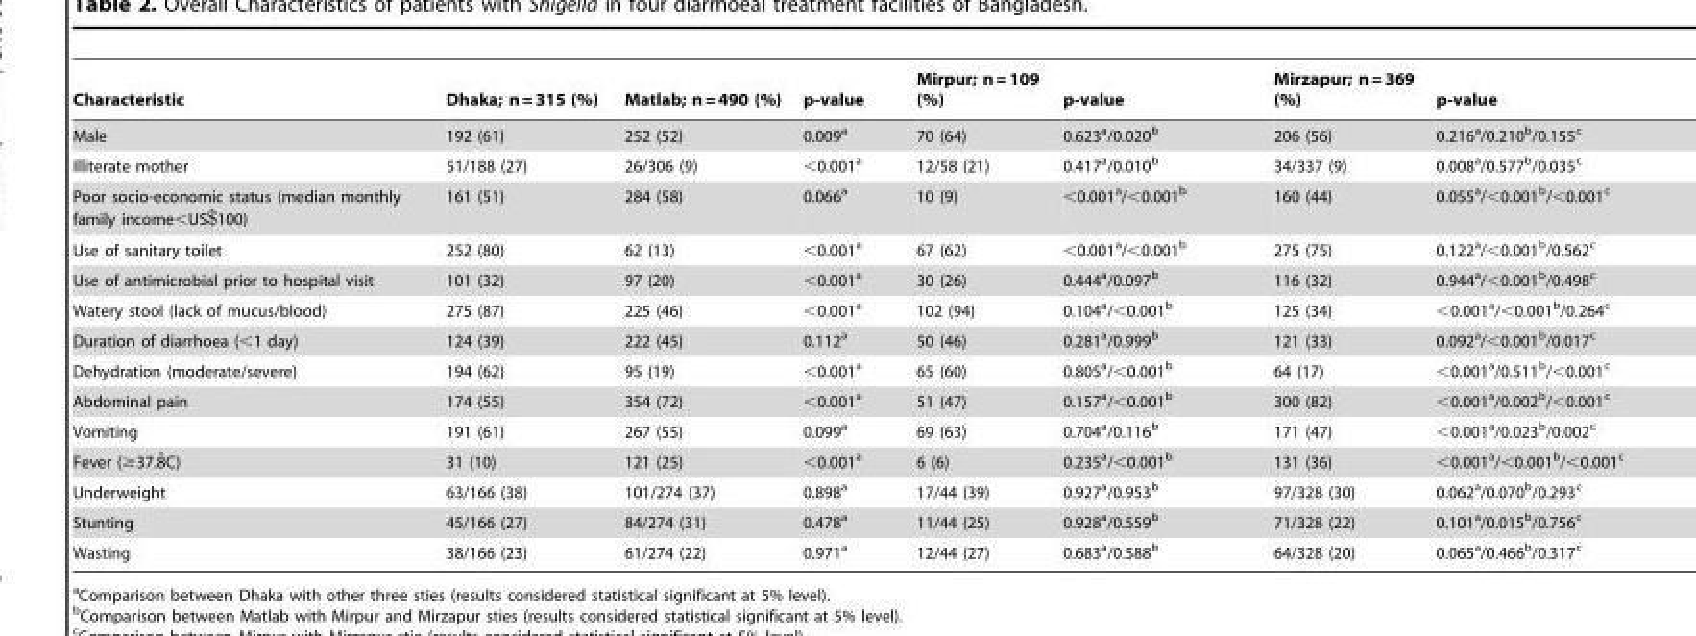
<table><thead><tr><td>Characteristic</td><td>Dhaka; n = 315 (%)</td><td>Matlab; n = 490 (%)</td><td>p-value</td><td>Mirpur; n = 109 (%)</td><td>p-value</td><td>Mirzapur; n = 369 (%)</td><td>p-value</td></tr></thead><tbody><tr><td>Male</td><td>192 (61)</td><td>252 (52)</td><td>0.009<sup>a</sup></td><td>70 (64)</td><td>0.623<sup>a</sup>/0.020<sup>b</sup></td><td>206 (56)</td><td>0.216<sup>a</sup>/0.210<sup>b</sup>/0.155<sup>c</sup></td></tr><tr><td>Illiterate mother</td><td>51/188 (27)</td><td>26/306 (9)</td><td>&lt;0.001<sup>a</sup></td><td>12/58 (21)</td><td>0.417<sup>a</sup>/0.010<sup>b</sup></td><td>34/337 (9)</td><td>0.008<sup>a</sup>/0.577<sup>b</sup>/0.035<sup>c</sup></td></tr><tr><td>Poor socio-economic status (median monthly family income&lt;US$100)</td><td>161 (51)</td><td>284 (58)</td><td>0.066<sup>a</sup></td><td>10 (9)</td><td>&lt;0.001<sup>a</sup>/&lt;0.001<sup>b</sup></td><td>160 (44)</td><td>0.055<sup>a</sup>/&lt;0.001<sup>b</sup>/&lt;0.001<sup>c</sup></td></tr><tr><td>Use of sanitary toilet</td><td>252 (80)</td><td>62 (13)</td><td>&lt;0.001<sup>a</sup></td><td>67 (62)</td><td>&lt;0.001<sup>a</sup>/&lt;0.001<sup>b</sup></td><td>275 (75)</td><td>0.122<sup>a</sup>/&lt;0.001<sup>b</sup>/0.562<sup>c</sup></td></tr><tr><td>Use of antimicrobial prior to hospital visit</td><td>101 (32)</td><td>97 (20)</td><td>&lt;0.001<sup>a</sup></td><td>30 (26)</td><td>0.444<sup>a</sup>/0.097<sup>b</sup></td><td>116 (32)</td><td>0.944<sup>a</sup>/&lt;0.001<sup>b</sup>/0.498<sup>c</sup></td></tr><tr><td>Watery stool (lack of mucus/blood)</td><td>275 (87)</td><td>225 (46)</td><td>&lt;0.001<sup>a</sup></td><td>102 (94)</td><td>0.104<sup>a</sup>/&lt;0.001<sup>b</sup></td><td>125 (34)</td><td>&lt;0.001<sup>a</sup>/&lt;0.001<sup>b</sup>/0.264<sup>c</sup></td></tr><tr><td>Duration of diarrhoea (&lt;1 day)</td><td>124 (39)</td><td>222 (45)</td><td>0.112<sup>a</sup></td><td>50 (46)</td><td>0.281<sup>a</sup>/0.999<sup>b</sup></td><td>121 (33)</td><td>0.092<sup>a</sup>/&lt;0.001<sup>b</sup>/0.017<sup>c</sup></td></tr><tr><td>Dehydration (moderate/severe)</td><td>194 (62)</td><td>95 (19)</td><td>&lt;0.001<sup>a</sup></td><td>65 (60)</td><td>0.805<sup>a</sup>/&lt;0.001<sup>b</sup></td><td>64 (17)</td><td>&lt;0.001<sup>a</sup>/0.511<sup>b</sup>/&lt;0.001<sup>c</sup></td></tr><tr><td>Abdominal pain</td><td>174 (55)</td><td>354 (72)</td><td>&lt;0.001<sup>a</sup></td><td>51 (47)</td><td>0.157<sup>a</sup>/&lt;0.001<sup>b</sup></td><td>300 (82)</td><td>&lt;0.001<sup>a</sup>/0.002<sup>b</sup>/&lt;0.001<sup>c</sup></td></tr><tr><td>Vomiting</td><td>191 (61)</td><td>267 (55)</td><td>0.099<sup>a</sup></td><td>69 (63)</td><td>0.704<sup>a</sup>/0.116<sup>b</sup></td><td>171 (47)</td><td>&lt;0.001<sup>a</sup>/0.023<sup>b</sup>/0.002<sup>c</sup></td></tr><tr><td>Fever (≥37.8˚C)</td><td>31 (10)</td><td>121 (25)</td><td>&lt;0.001<sup>a</sup></td><td>6 (6)</td><td>0.235<sup>a</sup>/&lt;0.001<sup>b</sup></td><td>131 (36)</td><td>&lt;0.001<sup>a</sup>/&lt;0.001<sup>b</sup>/&lt;0.001<sup>c</sup></td></tr><tr><td>Underweight</td><td>63/166 (38)</td><td>101/274 (37)</td><td>0.898<sup>a</sup></td><td>17/44 (39)</td><td>0.927<sup>a</sup>/0.953<sup>b</sup></td><td>97/328 (30)</td><td>0.062<sup>a</sup>/0.070<sup>b</sup>/0.293<sup>c</sup></td></tr><tr><td>Stunting</td><td>45/166 (27)</td><td>84/274 (31)</td><td>0.478<sup>a</sup></td><td>11/44 (25)</td><td>0.928<sup>a</sup>/0.559<sup>b</sup></td><td>71/328 (22)</td><td>0.101<sup>a</sup>/0.015<sup>b</sup>/0.756<sup>c</sup></td></tr><tr><td>Wasting</td><td>38/166 (23)</td><td>61/274 (22)</td><td>0.971<sup>a</sup></td><td>12/44 (27)</td><td>0.683<sup>a</sup>/0.588<sup>b</sup></td><td>64/328 (20)</td><td>0.065<sup>a</sup>/0.466<sup>b</sup>/0.317<sup>c</sup></td></tr></tbody></table>